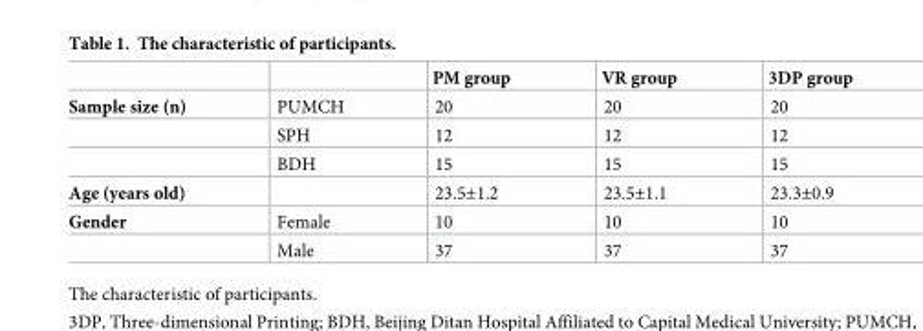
<table><thead><tr><td></td><td></td><td>PM group</td><td>VR group</td><td>3DP group</td></tr></thead><tbody><tr><td rowspan="3">Sample size (n)</td><td>PUMCH</td><td>20</td><td>20</td><td>20</td></tr><tr><td>SPH</td><td>12</td><td>12</td><td>12</td></tr><tr><td>BDH</td><td>15</td><td>15</td><td>15</td></tr><tr><td>Age (years old)</td><td></td><td>23.5±1.2</td><td>23.5±1.1</td><td>23.3±0.9</td></tr><tr><td rowspan="2">Gender</td><td>Female</td><td>10</td><td>10</td><td>10</td></tr><tr><td>Male</td><td>37</td><td>37</td><td>37</td></tr></tbody></table>